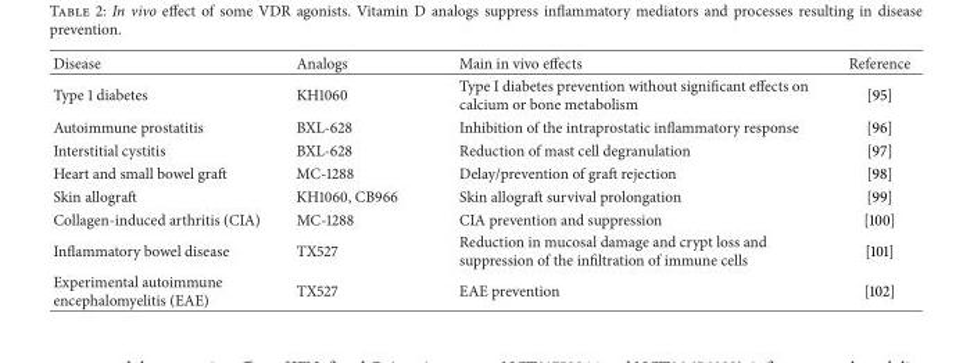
<table><thead><tr><td>Disease</td><td>Analogs</td><td>Main in vivo effects</td><td>Reference</td></tr></thead><tbody><tr><td>Type 1 diabetes</td><td>KH1060</td><td>Type I diabetes prevention without significant effects on calcium or bone metabolism</td><td>[95]</td></tr><tr><td>Autoimmune prostatitis</td><td>BXL-628</td><td>Inhibition of the intraprostatic inflammatory response</td><td>[96]</td></tr><tr><td>Interstitial cystitis</td><td>BXL-628</td><td>Reduction of mast cell degranulation</td><td>[97]</td></tr><tr><td>Heart and small bowel graft</td><td>MC-1288</td><td>Delay/prevention of graft rejection</td><td>[98]</td></tr><tr><td>Skin allograft</td><td>KH1060, CB966</td><td>Skin allograft survival prolongation</td><td>[99]</td></tr><tr><td>Collagen-induced arthritis (CIA)</td><td>MC-1288</td><td>CIA prevention and suppression</td><td>[100]</td></tr><tr><td>Inflammatory bowel disease</td><td>TX527</td><td>Reduction in mucosal damage and crypt loss and suppression of the infiltration of immune cells</td><td>[101]</td></tr><tr><td>Experimental autoimmune encephalomyelitis (EAE)</td><td>TX527</td><td>EAE prevention</td><td>[102]</td></tr></tbody></table>